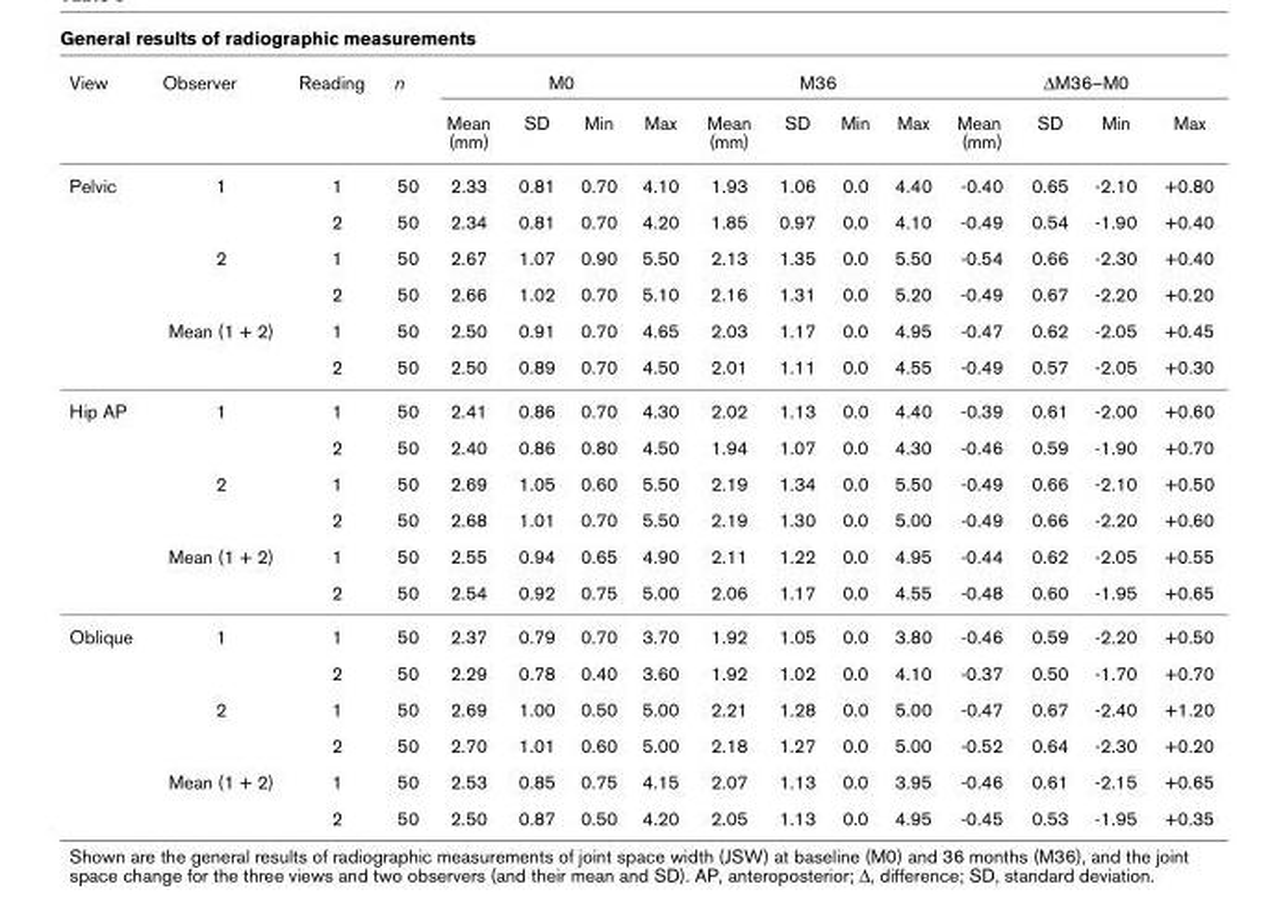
<table><thead><tr><td rowspan="2">View</td><td rowspan="2">Observer</td><td rowspan="2">Reading</td><td rowspan="2">n</td><td colspan="4">M0</td><td colspan="4">M36</td><td colspan="4">∆M36–M0</td></tr><tr><td>Mean (mm)</td><td>SD</td><td>Min</td><td>Max</td><td>Mean (mm)</td><td>SD</td><td>Min</td><td>Max</td><td>Mean (mm)</td><td>SD</td><td>Min</td><td>Max</td></tr></thead><tbody><tr><td rowspan="6">Pelvic</td><td>1</td><td>1</td><td>50</td><td>2.33</td><td>0.81</td><td>0.70</td><td>4.10</td><td>1.93</td><td>1.06</td><td>0.0</td><td>4.40</td><td>-0.40</td><td>0.65</td><td>-2.10</td><td>+0.80</td></tr><tr><td></td><td>2</td><td>50</td><td>2.34</td><td>0.81</td><td>0.70</td><td>4.20</td><td>1.85</td><td>0.97</td><td>0.0</td><td>4.10</td><td>-0.49</td><td>0.54</td><td>-1.90</td><td>+0.40</td></tr><tr><td>2</td><td>1</td><td>50</td><td>2.67</td><td>1.07</td><td>0.90</td><td>5.50</td><td>2.13</td><td>1.35</td><td>0.0</td><td>5.50</td><td>-0.54</td><td>0.66</td><td>-2.30</td><td>+0.40</td></tr><tr><td></td><td>2</td><td>50</td><td>2.66</td><td>1.02</td><td>0.70</td><td>5.10</td><td>2.16</td><td>1.31</td><td>0.0</td><td>5.20</td><td>-0.49</td><td>0.67</td><td>-2.20</td><td>+0.20</td></tr><tr><td>Mean (1 + 2)</td><td>1</td><td>50</td><td>2.50</td><td>0.91</td><td>0.70</td><td>4.65</td><td>2.03</td><td>1.17</td><td>0.0</td><td>4.95</td><td>-0.47</td><td>0.62</td><td>-2.05</td><td>+0.45</td></tr><tr><td></td><td>2</td><td>50</td><td>2.50</td><td>0.89</td><td>0.70</td><td>4.50</td><td>2.01</td><td>1.11</td><td>0.0</td><td>4.55</td><td>-0.49</td><td>0.57</td><td>-2.05</td><td>+0.30</td></tr><tr><td rowspan="6">Hip AP</td><td>1</td><td>1</td><td>50</td><td>2.41</td><td>0.86</td><td>0.70</td><td>4.30</td><td>2.02</td><td>1.13</td><td>0.0</td><td>4.40</td><td>-0.39</td><td>0.61</td><td>-2.00</td><td>+0.60</td></tr><tr><td></td><td>2</td><td>50</td><td>2.40</td><td>0.86</td><td>0.80</td><td>4.50</td><td>1.94</td><td>1.07</td><td>0.0</td><td>4.30</td><td>-0.46</td><td>0.59</td><td>-1.90</td><td>+0.70</td></tr><tr><td>2</td><td>1</td><td>50</td><td>2.69</td><td>1.05</td><td>0.60</td><td>5.50</td><td>2.19</td><td>1.34</td><td>0.0</td><td>5.50</td><td>-0.49</td><td>0.66</td><td>-2.10</td><td>+0.50</td></tr><tr><td></td><td>2</td><td>50</td><td>2.68</td><td>1.01</td><td>0.70</td><td>5.50</td><td>2.19</td><td>1.30</td><td>0.0</td><td>5.00</td><td>-0.49</td><td>0.66</td><td>-2.20</td><td>+0.60</td></tr><tr><td>Mean (1 + 2)</td><td>1</td><td>50</td><td>2.55</td><td>0.94</td><td>0.65</td><td>4.90</td><td>2.11</td><td>1.22</td><td>0.0</td><td>4.95</td><td>-0.44</td><td>0.62</td><td>-2.05</td><td>+0.55</td></tr><tr><td></td><td>2</td><td>50</td><td>2.54</td><td>0.92</td><td>0.75</td><td>5.00</td><td>2.06</td><td>1.17</td><td>0.0</td><td>4.55</td><td>-0.48</td><td>0.60</td><td>-1.95</td><td>+0.65</td></tr><tr><td rowspan="6">Oblique</td><td>1</td><td>1</td><td>50</td><td>2.37</td><td>0.79</td><td>0.70</td><td>3.70</td><td>1.92</td><td>1.05</td><td>0.0</td><td>3.80</td><td>-0.46</td><td>0.59</td><td>-2.20</td><td>+0.50</td></tr><tr><td></td><td>2</td><td>50</td><td>2.29</td><td>0.78</td><td>0.40</td><td>3.60</td><td>1.92</td><td>1.02</td><td>0.0</td><td>4.10</td><td>-0.37</td><td>0.50</td><td>-1.70</td><td>+0.70</td></tr><tr><td>2</td><td>1</td><td>50</td><td>2.69</td><td>1.00</td><td>0.50</td><td>5.00</td><td>2.21</td><td>1.28</td><td>0.0</td><td>5.00</td><td>-0.47</td><td>0.67</td><td>-2.40</td><td>+1.20</td></tr><tr><td></td><td>2</td><td>50</td><td>2.70</td><td>1.01</td><td>0.60</td><td>5.00</td><td>2.18</td><td>1.27</td><td>0.0</td><td>5.00</td><td>-0.52</td><td>0.64</td><td>-2.30</td><td>+0.20</td></tr><tr><td>Mean (1 + 2)</td><td>1</td><td>50</td><td>2.53</td><td>0.85</td><td>0.75</td><td>4.15</td><td>2.07</td><td>1.13</td><td>0.0</td><td>3.95</td><td>-0.46</td><td>0.61</td><td>-2.15</td><td>+0.65</td></tr><tr><td></td><td>2</td><td>50</td><td>2.50</td><td>0.87</td><td>0.50</td><td>4.20</td><td>2.05</td><td>1.13</td><td>0.0</td><td>4.95</td><td>-0.45</td><td>0.53</td><td>-1.95</td><td>+0.35</td></tr></tbody></table>